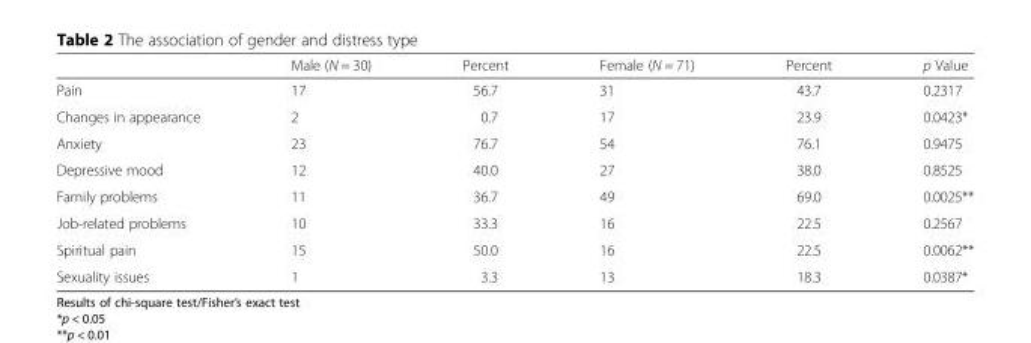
<table><thead><tr><td></td><td>Male (N = 30)</td><td>Percent</td><td>Female (N = 71)</td><td>Percent</td><td>p Value</td></tr></thead><tbody><tr><td>Pain</td><td>17</td><td>56.7</td><td>31</td><td>43.7</td><td>0.2317</td></tr><tr><td>Changes in appearance</td><td>2</td><td>0.7</td><td>17</td><td>23.9</td><td>0.0423*</td></tr><tr><td>Anxiety</td><td>23</td><td>76.7</td><td>54</td><td>76.1</td><td>0.9475</td></tr><tr><td>Depressive mood</td><td>12</td><td>40.0</td><td>27</td><td>38.0</td><td>0.8525</td></tr><tr><td>Family problems</td><td>11</td><td>36.7</td><td>49</td><td>69.0</td><td>0.0025**</td></tr><tr><td>Job-related problems</td><td>10</td><td>33.3</td><td>16</td><td>22.5</td><td>0.2567</td></tr><tr><td>Spiritual pain</td><td>15</td><td>50.0</td><td>16</td><td>22.5</td><td>0.0062**</td></tr><tr><td>Sexuality issues</td><td>1</td><td>3.3</td><td>13</td><td>18.3</td><td>0.0387*</td></tr></tbody></table>